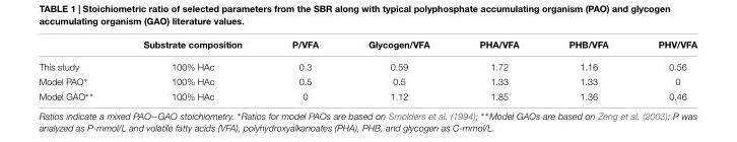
<table><thead><tr><td></td><td>Substrate composition</td><td>P/VFA</td><td>Glycogen/VFA</td><td>PHA/VFA</td><td>PHB/VFA</td><td>PHV/VFA</td></tr></thead><tbody><tr><td>This study</td><td>100% HAc</td><td>0.3</td><td>0.59</td><td>1.72</td><td>1.16</td><td>0.56</td></tr><tr><td>Model PAO∗</td><td>100% HAc</td><td>0.5</td><td>0.5</td><td>1.33</td><td>1.33</td><td>0</td></tr><tr><td>Model GAO∗∗</td><td>100% HAc</td><td>0</td><td>1.12</td><td>1.85</td><td>1.36</td><td>0.46</td></tr></tbody></table>